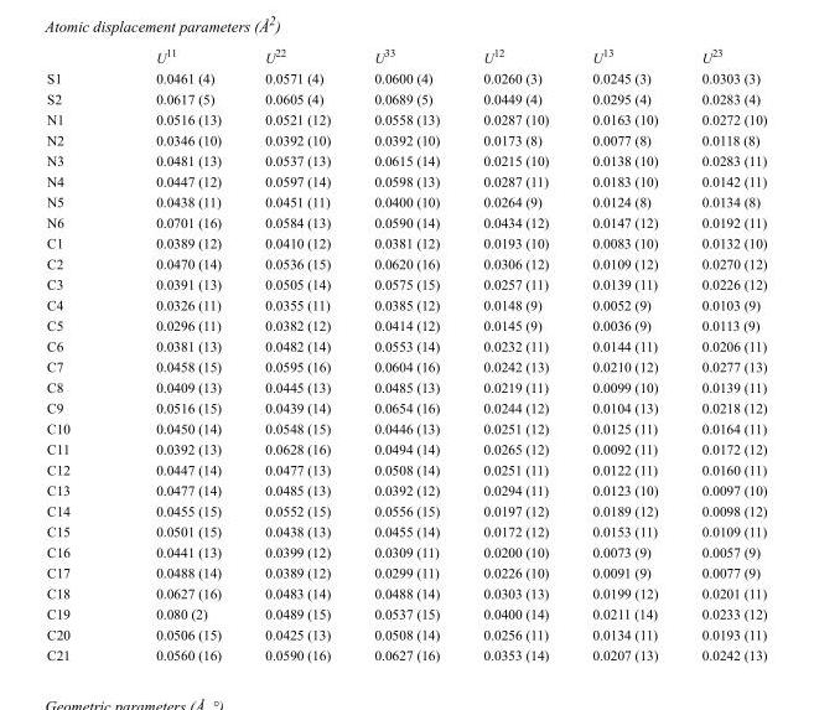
<table><thead><tr><td></td><td>U<sup>11</sup></td><td>U<sup>22</sup></td><td>U<sup>33</sup></td><td>U<sup>12</sup></td><td>U<sup>13</sup></td><td>U<sup>23</sup></td></tr></thead><tbody><tr><td>S1</td><td>0.0461 (4)</td><td>0.0571 (4)</td><td>0.0600 (4)</td><td>0.0260 (3)</td><td>0.0245 (3)</td><td>0.0303 (3)</td></tr><tr><td>S2</td><td>0.0617 (5)</td><td>0.0605 (4)</td><td>0.0689 (5)</td><td>0.0449 (4)</td><td>0.0295 (4)</td><td>0.0283 (4)</td></tr><tr><td>N1</td><td>0.0516 (13)</td><td>0.0521 (12)</td><td>0.0558 (13)</td><td>0.0287 (10)</td><td>0.0163 (10)</td><td>0.0272 (10)</td></tr><tr><td>N2</td><td>0.0346 (10)</td><td>0.0392 (10)</td><td>0.0392 (10)</td><td>0.0173 (8)</td><td>0.0077 (8)</td><td>0.0118 (8)</td></tr><tr><td>N3</td><td>0.0481 (13)</td><td>0.0537 (13)</td><td>0.0615 (14)</td><td>0.0215 (10)</td><td>0.0138 (10)</td><td>0.0283 (11)</td></tr><tr><td>N4</td><td>0.0447 (12)</td><td>0.0597 (14)</td><td>0.0598 (13)</td><td>0.0287 (11)</td><td>0.0183 (10)</td><td>0.0142 (11)</td></tr><tr><td>N5</td><td>0.0438 (11)</td><td>0.0451 (11)</td><td>0.0400 (10)</td><td>0.0264 (9)</td><td>0.0124 (8)</td><td>0.0134 (8)</td></tr><tr><td>N6</td><td>0.0701 (16)</td><td>0.0584 (13)</td><td>0.0590 (14)</td><td>0.0434 (12)</td><td>0.0147 (12)</td><td>0.0192 (11)</td></tr><tr><td>C1</td><td>0.0389 (12)</td><td>0.0410 (12)</td><td>0.0381 (12)</td><td>0.0193 (10)</td><td>0.0083 (10)</td><td>0.0132 (10)</td></tr><tr><td>C2</td><td>0.0470 (14)</td><td>0.0536 (15)</td><td>0.0620 (16)</td><td>0.0306 (12)</td><td>0.0109 (12)</td><td>0.0270 (12)</td></tr><tr><td>C3</td><td>0.0391 (13)</td><td>0.0505 (14)</td><td>0.0575 (15)</td><td>0.0257 (11)</td><td>0.0139 (11)</td><td>0.0226 (12)</td></tr><tr><td>C4</td><td>0.0326 (11)</td><td>0.0355 (11)</td><td>0.0385 (12)</td><td>0.0148 (9)</td><td>0.0052 (9)</td><td>0.0103 (9)</td></tr><tr><td>C5</td><td>0.0296 (11)</td><td>0.0382 (12)</td><td>0.0414 (12)</td><td>0.0145 (9)</td><td>0.0036 (9)</td><td>0.0113 (9)</td></tr><tr><td>C6</td><td>0.0381 (13)</td><td>0.0482 (14)</td><td>0.0553 (14)</td><td>0.0232 (11)</td><td>0.0144 (11)</td><td>0.0206 (11)</td></tr><tr><td>C7</td><td>0.0458 (15)</td><td>0.0595 (16)</td><td>0.0604 (16)</td><td>0.0242 (13)</td><td>0.0210 (12)</td><td>0.0277 (13)</td></tr><tr><td>C8</td><td>0.0409 (13)</td><td>0.0445 (13)</td><td>0.0485 (13)</td><td>0.0219 (11)</td><td>0.0099 (10)</td><td>0.0139 (11)</td></tr><tr><td>C9</td><td>0.0516 (15)</td><td>0.0439 (14)</td><td>0.0654 (16)</td><td>0.0244 (12)</td><td>0.0104 (13)</td><td>0.0218 (12)</td></tr><tr><td>C10</td><td>0.0450 (14)</td><td>0.0548 (15)</td><td>0.0446 (13)</td><td>0.0251 (12)</td><td>0.0125 (11)</td><td>0.0164 (11)</td></tr><tr><td>C11</td><td>0.0392 (13)</td><td>0.0628 (16)</td><td>0.0494 (14)</td><td>0.0265 (12)</td><td>0.0092 (11)</td><td>0.0172 (12)</td></tr><tr><td>C12</td><td>0.0447 (14)</td><td>0.0477 (13)</td><td>0.0508 (14)</td><td>0.0251 (11)</td><td>0.0122 (11)</td><td>0.0160 (11)</td></tr><tr><td>C13</td><td>0.0477 (14)</td><td>0.0485 (13)</td><td>0.0392 (12)</td><td>0.0294 (11)</td><td>0.0123 (10)</td><td>0.0097 (10)</td></tr><tr><td>C14</td><td>0.0455 (15)</td><td>0.0552 (15)</td><td>0.0556 (15)</td><td>0.0197 (12)</td><td>0.0189 (12)</td><td>0.0098 (12)</td></tr><tr><td>C15</td><td>0.0501 (15)</td><td>0.0438 (13)</td><td>0.0455 (14)</td><td>0.0172 (12)</td><td>0.0153 (11)</td><td>0.0109 (11)</td></tr><tr><td>C16</td><td>0.0441 (13)</td><td>0.0399 (12)</td><td>0.0309 (11)</td><td>0.0200 (10)</td><td>0.0073 (9)</td><td>0.0057 (9)</td></tr><tr><td>C17</td><td>0.0488 (14)</td><td>0.0389 (12)</td><td>0.0299 (11)</td><td>0.0226 (10)</td><td>0.0091 (9)</td><td>0.0077 (9)</td></tr><tr><td>C18</td><td>0.0627 (16)</td><td>0.0483 (14)</td><td>0.0488 (14)</td><td>0.0303 (13)</td><td>0.0199 (12)</td><td>0.0201 (11)</td></tr><tr><td>C19</td><td>0.080 (2)</td><td>0.0489 (15)</td><td>0.0537 (15)</td><td>0.0400 (14)</td><td>0.0211 (14)</td><td>0.0233 (12)</td></tr><tr><td>C20</td><td>0.0506 (15)</td><td>0.0425 (13)</td><td>0.0508 (14)</td><td>0.0256 (11)</td><td>0.0134 (11)</td><td>0.0193 (11)</td></tr><tr><td>C21</td><td>0.0560 (16)</td><td>0.0590 (16)</td><td>0.0627 (16)</td><td>0.0353 (14)</td><td>0.0207 (13)</td><td>0.0242 (13)</td></tr></tbody></table>